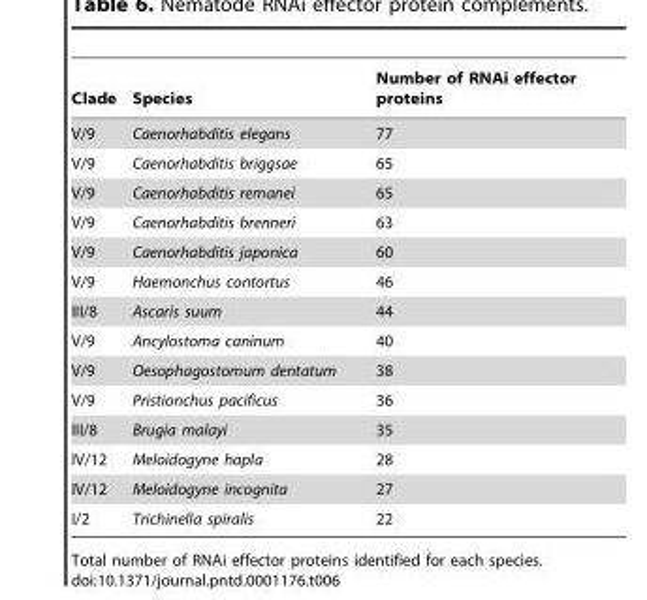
<table><thead><tr><td>Clade</td><td>Species</td><td>Number of RNAi effector proteins</td></tr></thead><tbody><tr><td>V/9</td><td>Caenorhabditis elegans</td><td>77</td></tr><tr><td>V/9</td><td>Caenorhabditis briggsae</td><td>65</td></tr><tr><td>V/9</td><td>Caenorhabditis remanei</td><td>65</td></tr><tr><td>V/9</td><td>Caenorhabditis brenneri</td><td>63</td></tr><tr><td>V/9</td><td>Caenorhabditis japonica</td><td>60</td></tr><tr><td>V/9</td><td>Haemonchus contortus</td><td>46</td></tr><tr><td>III/8</td><td>Ascaris suum</td><td>44</td></tr><tr><td>V/9</td><td>Ancylostoma caninum</td><td>40</td></tr><tr><td>V/9</td><td>Oesophagostomum dentatum</td><td>38</td></tr><tr><td>V/9</td><td>Pristionchus pacificus</td><td>36</td></tr><tr><td>III/8</td><td>Brugia malayi</td><td>35</td></tr><tr><td>IV/12</td><td>Meloidogyne hapla</td><td>28</td></tr><tr><td>IV/12</td><td>Meloidogyne incognita</td><td>27</td></tr><tr><td>I/2</td><td>Trichinella spiralis</td><td>22</td></tr></tbody></table>